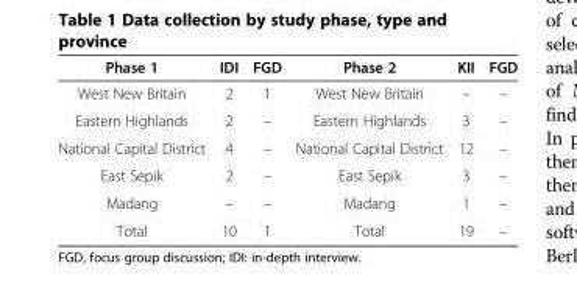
<table><thead><tr><td>Phase 1</td><td>IDI</td><td>FGD</td><td>Phase 2</td><td>KII</td><td>FGD</td></tr></thead><tbody><tr><td>West New Britain</td><td>2</td><td>1</td><td>West New Britain</td><td>–</td><td>–</td></tr><tr><td>Eastern Highlands</td><td>2</td><td>–</td><td>Eastern Highlands</td><td>3</td><td>–</td></tr><tr><td>National Capital District</td><td>4</td><td>–</td><td>National Capital District</td><td>12</td><td>–</td></tr><tr><td>East Sepik</td><td>2</td><td>–</td><td>East Sepik</td><td>3</td><td>–</td></tr><tr><td>Madang</td><td>–</td><td>–</td><td>Madang</td><td>1</td><td>–</td></tr><tr><td>Total</td><td>10</td><td>1</td><td>Total</td><td>19</td><td>–</td></tr></tbody></table>